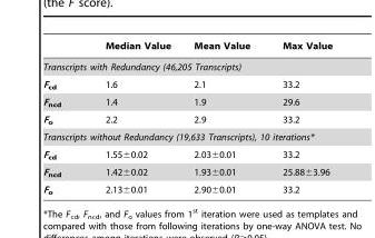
<table><thead><tr><td></td><td>Median Value</td><td>Mean Value</td><td>Max Value</td></tr></thead><tbody><tr><td colspan="4">Transcripts with Redundancy (46,205 Transcripts)</td></tr><tr><td>F<sub>cd</sub></td><td>1.6</td><td>2.1</td><td>33.2</td></tr><tr><td>F<sub>ncd</sub></td><td>1.4</td><td>1.9</td><td>29.6</td></tr><tr><td>F<sub>o</sub></td><td>2.2</td><td>2.9</td><td>33.2</td></tr><tr><td colspan="4">Transcripts without Redundancy (19,633 Transcripts), 10 iterations*</td></tr><tr><td>F<sub>cd</sub></td><td>1.55±0.02</td><td>2.03±0.01</td><td>33.2</td></tr><tr><td>F<sub>ncd</sub></td><td>1.42±0.02</td><td>1.93±0.01</td><td>25.88±3.96</td></tr><tr><td>F<sub>o</sub></td><td>2.13±0.01</td><td>2.90±0.01</td><td>33.2</td></tr></tbody></table>